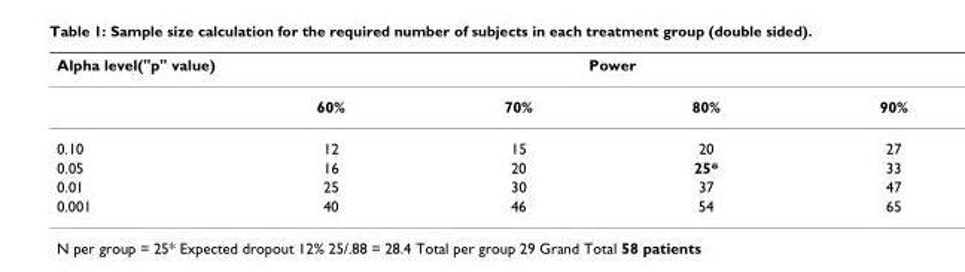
<table><thead><tr><td rowspan="2">Alpha level(&quot;p&quot; value)</td><td colspan="4">Power</td></tr><tr><td>60%</td><td>70%</td><td>80%</td><td>90%</td></tr></thead><tbody><tr><td>0.10</td><td>12</td><td>15</td><td>20</td><td>27</td></tr><tr><td>0.05</td><td>16</td><td>20</td><td>25*</td><td>33</td></tr><tr><td>0.01</td><td>25</td><td>30</td><td>37</td><td>47</td></tr><tr><td>0.001</td><td>40</td><td>46</td><td>54</td><td>65</td></tr></tbody></table>